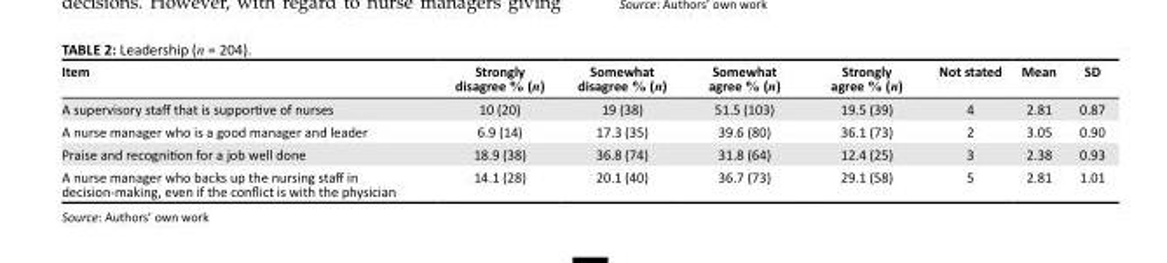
<table><thead><tr><td>Item</td><td>Strongly disagree % (n)</td><td>Somewhat disagree % (n)</td><td>Somewhat agree % (n)</td><td>Strongly agree % (n)</td><td>Not stated</td><td>Mean</td><td>SD</td></tr></thead><tbody><tr><td>A supervisory staff that is supportive of nurses</td><td>10 (20)</td><td>19 (38)</td><td>51.5 (103)</td><td>19.5 (39)</td><td>4</td><td>2.81</td><td>0.87</td></tr><tr><td>A nurse manager who is a good manager and leader</td><td>6.9 (14)</td><td>17.3 (35)</td><td>39.6 (80)</td><td>36.1 (73)</td><td>2</td><td>3.05</td><td>0.90</td></tr><tr><td>Praise and recog nition for a job well done</td><td>18.9 (38)</td><td>36.8 (74)</td><td>31.8 (64)</td><td>12.4 (25)</td><td>3</td><td>2.38</td><td>0.93</td></tr><tr><td>A nurse manager who backs up the nursing staff in de cision-making, even if the conflict is with the physician</td><td>14.1 (28)</td><td>20.1 (40)</td><td>36.7 (73)</td><td>29.1 (58)</td><td>5</td><td>2.81</td><td>1.01</td></tr></tbody></table>